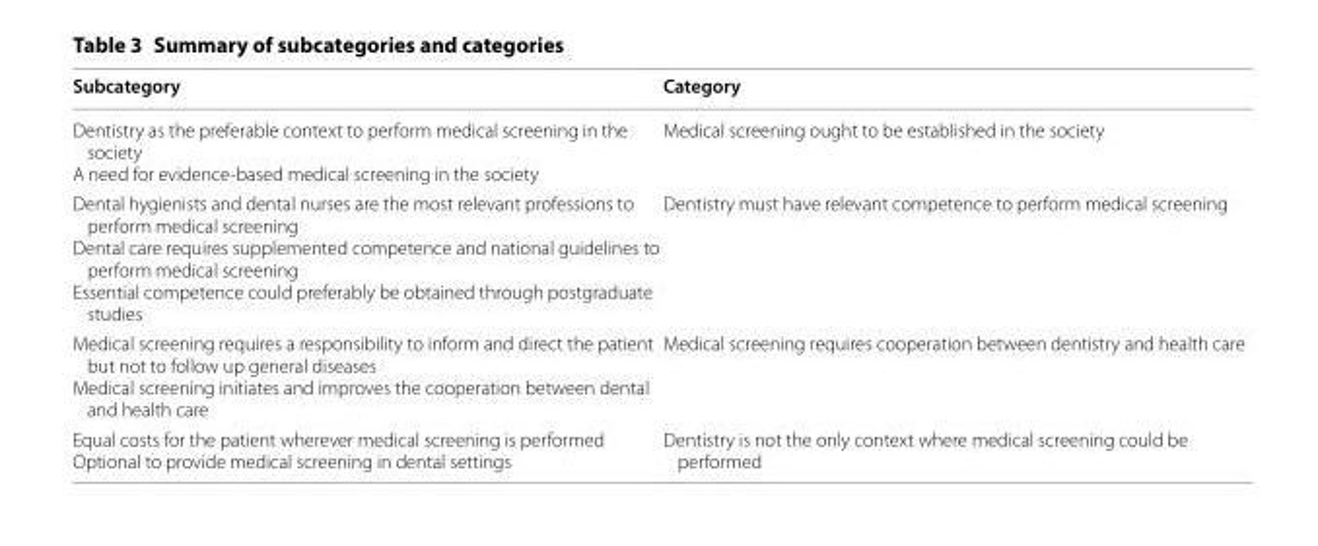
<table><thead><tr><td>Subcategory</td><td>Category</td></tr></thead><tbody><tr><td>Dentistry as the preferable context to perform medical screening in the society A need for evidence-based medical screening in the society</td><td>Medical screening ought to be established in the society</td></tr><tr><td>Dental hygienists and dental nurses are the most relevant professions to perform medical screening Dental care requires supplemented competence and national guidelines to perform medical screening Essential competence could preferably be obtained through postgraduate studies</td><td>Dentistry must have relevant competence to perform medical screening</td></tr><tr><td>Medical screening requires a responsibility to inform and direct the patient but not to follow up general diseases Medical screening initiates and improves the cooperation between dental and health care</td><td>Medical screening requires cooperation between dentistry and health care</td></tr><tr><td>Equal costs for the patient wherever medical screening is performed Optional to provide medical screening in dental settings</td><td>Dentistry is not the only context where medical screening could be performed</td></tr></tbody></table>